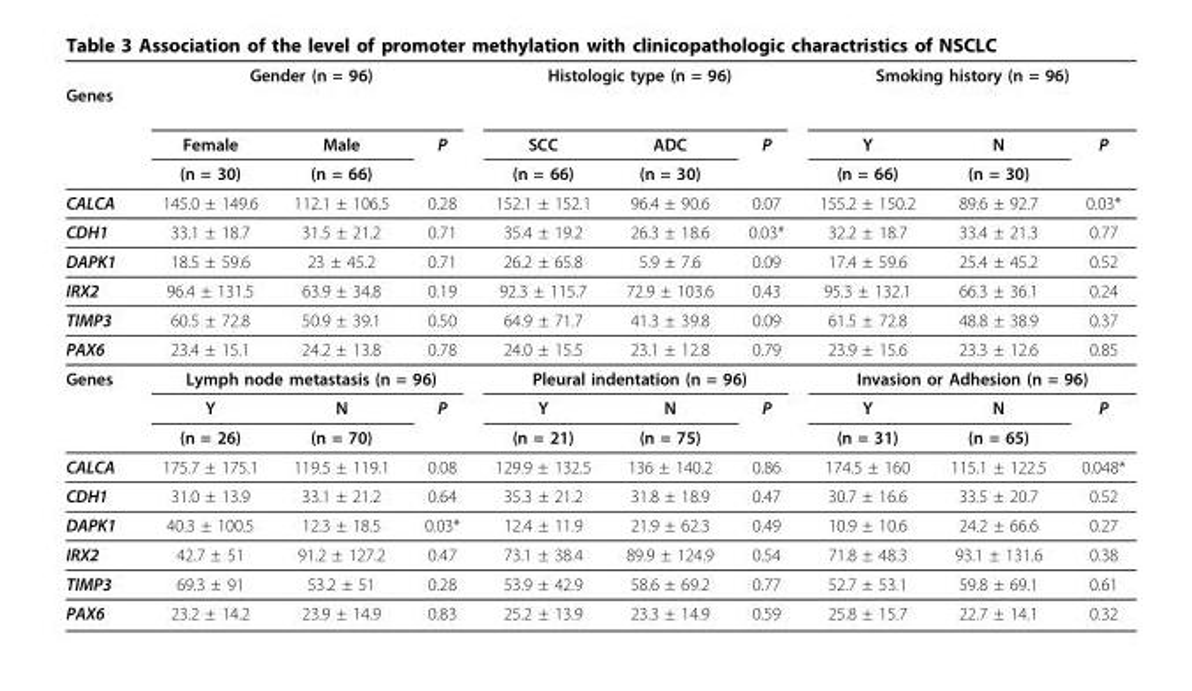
<table><thead><tr><td rowspan="3">Genes</td><td colspan="3">Gender (n = 96)</td><td colspan="3">Histologic type (n = 96)</td><td colspan="3">Smoking history (n = 96)</td></tr><tr><td rowspan="2">Female (n = 30)</td><td rowspan="2">Male (n = 66)</td><td rowspan="2">P</td><td rowspan="2">SCC (n = 66)</td><td rowspan="2">ADC (n = 30)</td><td rowspan="2">P</td><td rowspan="2">Y (n = 66)</td><td rowspan="2">N (n = 30)</td><td rowspan="2">P</td></tr><tr></tr></thead><tbody><tr><td>CALCA</td><td>145.0 ± 149.6</td><td>112.1 ± 106.5</td><td>0.28</td><td>152.1 ± 152.1</td><td>96.4 ± 90.6</td><td>0.07</td><td>155.2 ± 150.2</td><td>89.6 ± 92.7</td><td>0.03*</td></tr><tr><td>CDH1</td><td>33.1 ± 18.7</td><td>31.5 ± 21.2</td><td>0.71</td><td>35.4 ± 19.2</td><td>26.3 ± 18.6</td><td>0.03*</td><td>32.2 ± 18.7</td><td>33.4 ± 21.3</td><td>0.77</td></tr><tr><td>DAPK1</td><td>18.5 ± 59.6</td><td>23 ± 45.2</td><td>0.71</td><td>26.2 ± 65.8</td><td>5.9 ± 7.6</td><td>0.09</td><td>17.4 ± 59.6</td><td>25.4 ± 45.2</td><td>0.52</td></tr><tr><td>IRX2</td><td>96.4 ± 131.5</td><td>63.9 ± 34.8</td><td>0.19</td><td>92.3 ± 115.7</td><td>72.9 ± 103.6</td><td>0.43</td><td>95.3 ± 132.1</td><td>66.3 ± 36.1</td><td>0.24</td></tr><tr><td>TIMP3</td><td>60.5 ± 72.8</td><td>50.9 ± 39.1</td><td>0.50</td><td>64.9 ± 71.7</td><td>41.3 ± 39.8</td><td>0.09</td><td>61.5 ± 72.8</td><td>48.8 ± 38.9</td><td>0.37</td></tr><tr><td>PAX6</td><td>23.4 ± 15.1</td><td>24.2 ± 13.8</td><td>0.78</td><td>24.0 ± 15.5</td><td>23.1 ± 12.8</td><td>0.79</td><td>23.9 ± 15.6</td><td>23.3 ± 12.6</td><td>0.85</td></tr><tr><td rowspan="3">Genes</td><td colspan="3">Lymph node metastasis (n = 96)</td><td colspan="3">Pleural indentation (n = 96)</td><td colspan="3">Invasion or Adhesion (n = 96)</td></tr><tr><td>Y</td><td>N</td><td>P</td><td>Y</td><td>N</td><td>P</td><td>Y</td><td>N</td><td>P</td></tr><tr><td>(n = 26)</td><td>(n = 70)</td><td></td><td>(n = 21)</td><td>(n = 75)</td><td></td><td>(n = 31)</td><td>(n = 65)</td><td></td></tr><tr><td>CALCA</td><td>175.7 ± 175.1</td><td>119.5 ± 119.1</td><td>0.08</td><td>129.9 ± 132.5</td><td>136 ± 140.2</td><td>0.86</td><td>174.5 ± 160</td><td>115.1 ± 122.5</td><td>0.048*</td></tr><tr><td>CDH1</td><td>31.0 ± 13.9</td><td>33.1 ± 21.2</td><td>0.64</td><td>35.3 ± 21.2</td><td>31.8 ± 18.9</td><td>0.47</td><td>30.7 ± 16.6</td><td>33.5 ± 20.7</td><td>0.52</td></tr><tr><td>DAPK1</td><td>40.3 ± 100.5</td><td>12.3 ± 18.5</td><td>0.03*</td><td>12.4 ± 11.9</td><td>21.9 ± 62.3</td><td>0.49</td><td>10.9 ± 10.6</td><td>24.2 ± 66.6</td><td>0.27</td></tr><tr><td>IRX2</td><td>42.7 ± 51</td><td>91.2 ± 127.2</td><td>0.47</td><td>73.1 ± 38.4</td><td>89.9 ± 124.9</td><td>0.54</td><td>71.8 ± 48.3</td><td>93.1 ± 131.6</td><td>0.38</td></tr><tr><td>TIMP3</td><td>69.3 ± 91</td><td>53.2 ± 51</td><td>0.28</td><td>53.9 ± 42.9</td><td>58.6 ± 69.2</td><td>0.77</td><td>52.7 ± 53.1</td><td>59.8 ± 69.1</td><td>0.61</td></tr><tr><td>PAX6</td><td>23.2 ± 14.2</td><td>23.9 ± 14.9</td><td>0.83</td><td>25.2 ± 13.9</td><td>23.3 ± 14.9</td><td>0.59</td><td>25.8 ± 15.7</td><td>22.7 ± 14.1</td><td>0.32</td></tr></tbody></table>